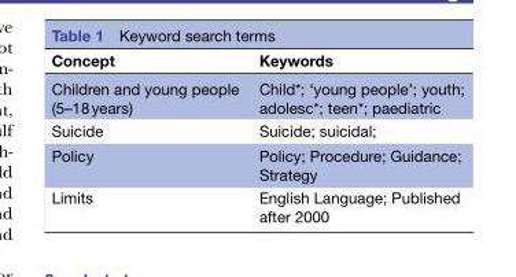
<table><thead><tr><td>Concept</td><td>Keywords</td></tr></thead><tbody><tr><td>Children and young people (5–18 years)</td><td>Child*; ‘young people’; youth; adolesc*; teen*; paediatric</td></tr><tr><td>Suicide</td><td>Suicide; suicidal;</td></tr><tr><td>Policy</td><td>Policy; Procedure; Guidance; Strategy</td></tr><tr><td>Limits</td><td>English Language; Published after 2000</td></tr></tbody></table>